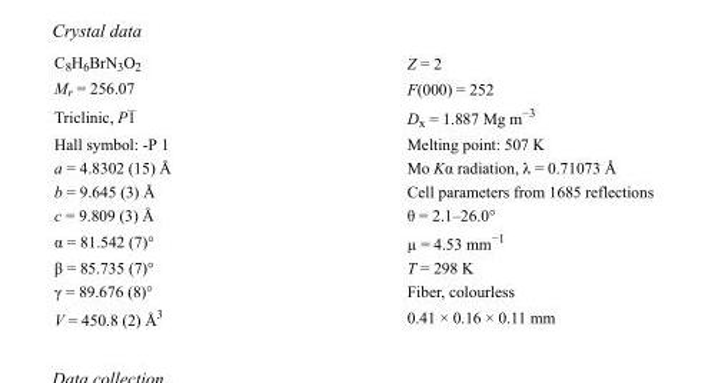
<table><tbody><tr><td>C<sub>8</sub>H<sub>6</sub>BrN<sub>3</sub>O<sub>2</sub></td><td>Z = 2</td></tr><tr><td>M<sub>r</sub> = 256.07</td><td>F(000) = 252</td></tr><tr><td>Triclinic, P1</td><td>D<sub>x</sub> = 1.887 Mg m<sup>−3</sup></td></tr><tr><td>Hall symbol: -P 1</td><td>Melting point: 507 K</td></tr><tr><td>a = 4.8302 (15) Å</td><td>Mo Kα radiation, λ = 0.71073 Å</td></tr><tr><td>b = 9.645 (3) Å</td><td>Cell parameters from 1685 reflections</td></tr><tr><td>c = 9.809 (3) Å</td><td>θ = 2.1–26.0°</td></tr><tr><td>α = 81.542 (7)°</td><td>µ = 4.53 mm<sup>−1</sup></td></tr><tr><td>β = 85.735 (7)°</td><td>T = 298 K</td></tr><tr><td>γ = 89.676 (8)°</td><td>Fiber, colourless</td></tr><tr><td>V = 450.8 (2) Å<sup>3</sup></td><td>0.41 × 0.16 × 0.11 mm</td></tr></tbody></table>